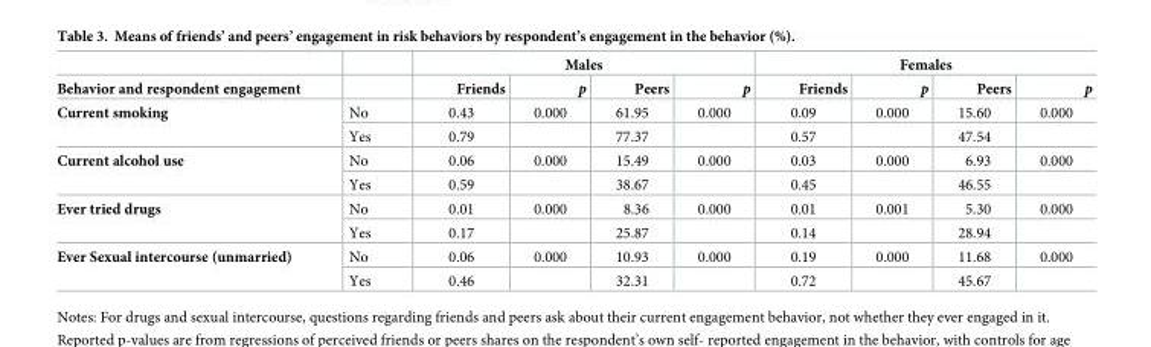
<table><thead><tr><td rowspan="2">Behavior and respondent engagement</td><td rowspan="2"></td><td colspan="4">Males</td><td colspan="4">Females</td></tr><tr><td>Friends</td><td>p</td><td>Peers</td><td>p</td><td>Friends</td><td>p</td><td>Peers</td><td>p</td></tr></thead><tbody><tr><td rowspan="2">Current smoking</td><td>No</td><td>0.43</td><td>0.000</td><td>61.95</td><td>0.000</td><td>0.09</td><td>0.000</td><td>15.60</td><td>0.000</td></tr><tr><td>Yes</td><td>0.79</td><td></td><td>77.37</td><td></td><td>0.57</td><td></td><td>47.54</td><td></td></tr><tr><td rowspan="2">Current alcohol use</td><td>No</td><td>0.06</td><td>0.000</td><td>15.49</td><td>0.000</td><td>0.03</td><td>0.000</td><td>6.93</td><td>0.000</td></tr><tr><td>Yes</td><td>0.59</td><td></td><td>38.67</td><td></td><td>0.45</td><td></td><td>46.55</td><td></td></tr><tr><td rowspan="2">Ever tried drugs</td><td>No</td><td>0.01</td><td>0.000</td><td>8.36</td><td>0.000</td><td>0.01</td><td>0.001</td><td>5.30</td><td>0.000</td></tr><tr><td>Yes</td><td>0.17</td><td></td><td>25.87</td><td></td><td>0.14</td><td></td><td>28.94</td><td></td></tr><tr><td rowspan="2">Ever Sexual intercourse (unmarried)</td><td>No</td><td>0.06</td><td>0.000</td><td>10.93</td><td>0.000</td><td>0.19</td><td>0.000</td><td>11.68</td><td>0.000</td></tr><tr><td>Yes</td><td>0.46</td><td></td><td>32.31</td><td></td><td>0.72</td><td></td><td>45.67</td><td></td></tr></tbody></table>